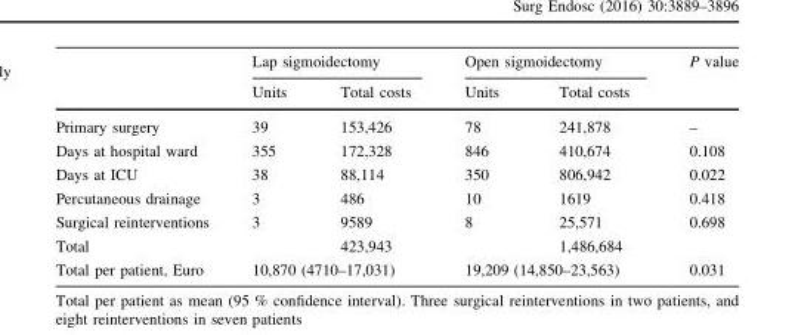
<table><thead><tr><td rowspan="2"></td><td colspan="2">Lap sigmoidectomy</td><td colspan="2">Open sigmoidectomy</td><td rowspan="2">P value</td></tr><tr><td>Units</td><td>Total costs</td><td>Units</td><td>Total costs</td></tr></thead><tbody><tr><td>Primary surgery</td><td>39</td><td>153,426</td><td>78</td><td>241,878</td><td>–</td></tr><tr><td>Days at hospital ward</td><td>355</td><td>172,328</td><td>846</td><td>410,674</td><td>0.108</td></tr><tr><td>Days at ICU</td><td>38</td><td>88,114</td><td>350</td><td>806,942</td><td>0.022</td></tr><tr><td>Percutaneous drainage</td><td>3</td><td>486</td><td>10</td><td>1619</td><td>0.418</td></tr><tr><td>Surgical reinterventions</td><td>3</td><td>9589</td><td>8</td><td>25,571</td><td>0.698</td></tr><tr><td>Total</td><td></td><td>423,943</td><td></td><td>1,486,684</td><td></td></tr><tr><td>Total per patient, Euro</td><td colspan="2">10,870 (4710–17,031)</td><td colspan="2">19,209 (14,850–23,563)</td><td>0.031</td></tr></tbody></table>